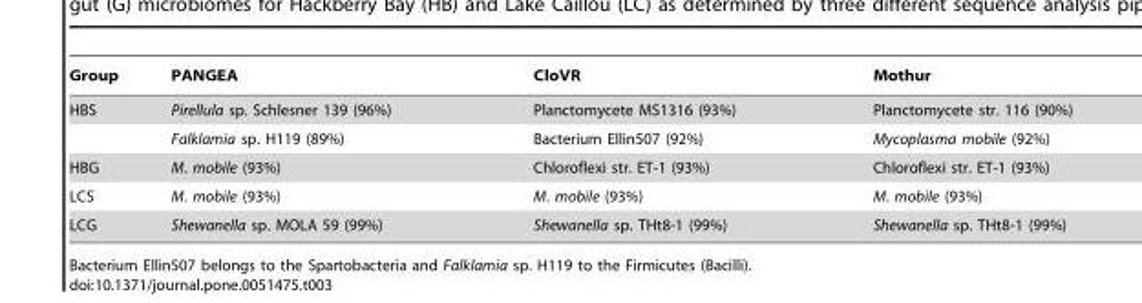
<table><thead><tr><td>Group</td><td>PANGEA</td><td>CloVR</td><td>Mothur</td></tr></thead><tbody><tr><td rowspan="2">HBS</td><td>Pirellula sp. Schlesner 139 (96%)</td><td>Planctomycete MS1316 (93%)</td><td>Planctomycete str. 116 (90%)</td></tr><tr><td>Falklamia sp. H119 (89%)</td><td>Bacterium Ellin507 (92%)</td><td>Mycoplasma mobile (92%)</td></tr><tr><td>HBG</td><td>M. mobile (93%)</td><td>Chloroflexi str. ET-1 (93%)</td><td>Chloroflexi str. ET-1 (93%)</td></tr><tr><td>LCS</td><td>M. mobile (93%)</td><td>M. mobile (93%)</td><td>M. mobile (93%)</td></tr><tr><td>LCG</td><td>Shewanella sp. MOLA 59 (99%)</td><td>Shewanella sp. THt8-1 (99%)</td><td>Shewanella sp. THt8-1 (99%)</td></tr></tbody></table>